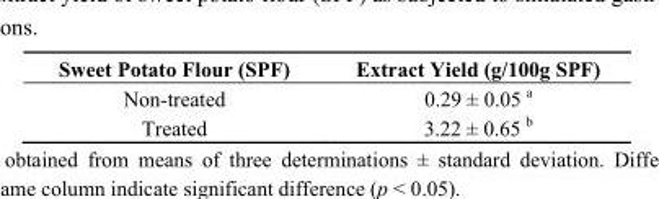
<table><thead><tr><td>Sweet Potato Flour (SPF)</td><td>Extract Yield (g/100g SPF)</td></tr></thead><tbody><tr><td>Non-treated</td><td>0.29 ± 0.05 a</td></tr><tr><td>Treated</td><td>3.22 ± 0.65 b</td></tr></tbody></table>